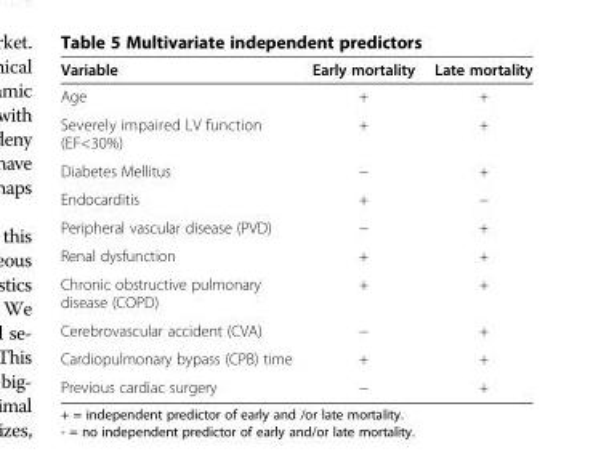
<table><thead><tr><td>Variable</td><td>Early mortality</td><td>Late mortality</td></tr></thead><tbody><tr><td>Age</td><td>+</td><td>+</td></tr><tr><td>Severely impaired LV function (EF&lt;30%)</td><td>+</td><td>+</td></tr><tr><td>Diabetes Mellitus</td><td>−</td><td>+</td></tr><tr><td>Endocarditis</td><td>+</td><td>−</td></tr><tr><td>Peripheral vascular disease (PVD)</td><td>−</td><td>+</td></tr><tr><td>Renal dysfunction</td><td>+</td><td>+</td></tr><tr><td>Chronic obstructive pulmonary disease (COPD)</td><td>+</td><td>+</td></tr><tr><td>Cerebrovascular accident (CVA)</td><td>−</td><td>+</td></tr><tr><td>Cardiopulmonary bypass (CPB) time</td><td>+</td><td>+</td></tr><tr><td>Previous cardiac surgery</td><td>−</td><td>+</td></tr></tbody></table>